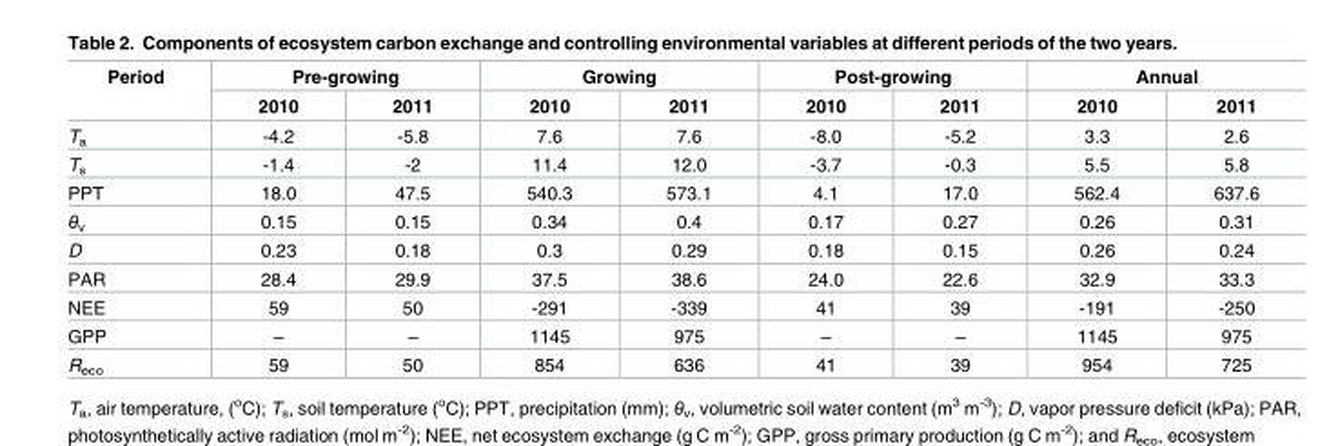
<table><thead><tr><td rowspan="2">Period</td><td colspan="2">Pre-growing</td><td colspan="2">Growing</td><td colspan="2">Post-growing</td><td colspan="2">Annual</td></tr><tr><td>2010</td><td>2011</td><td>2010</td><td>2011</td><td>2010</td><td>2011</td><td>2010</td><td>2011</td></tr></thead><tbody><tr><td>T<sub>a</sub></td><td>-4.2</td><td>-5.8</td><td>7.6</td><td>7.6</td><td>-8.0</td><td>-5.2</td><td>3.3</td><td>2.6</td></tr><tr><td>T<sub>s</sub></td><td>-1.4</td><td>-2</td><td>11.4</td><td>12.0</td><td>-3.7</td><td>-0.3</td><td>5.5</td><td>5.8</td></tr><tr><td>PPT</td><td>18.0</td><td>47.5</td><td>540.3</td><td>573.1</td><td>4.1</td><td>17.0</td><td>562.4</td><td>637.6</td></tr><tr><td>θ<sub>v</sub></td><td>0.15</td><td>0.15</td><td>0.34</td><td>0.4</td><td>0.17</td><td>0.27</td><td>0.26</td><td>0.31</td></tr><tr><td>D</td><td>0.23</td><td>0.18</td><td>0.3</td><td>0.29</td><td>0.18</td><td>0.15</td><td>0.26</td><td>0.24</td></tr><tr><td>PAR</td><td>28.4</td><td>29.9</td><td>37.5</td><td>38.6</td><td>24.0</td><td>22.6</td><td>32.9</td><td>33.3</td></tr><tr><td>NEE</td><td>59</td><td>50</td><td>-291</td><td>-339</td><td>41</td><td>39</td><td>-191</td><td>-250</td></tr><tr><td>GPP</td><td>–</td><td>–</td><td>1145</td><td>975</td><td>–</td><td>–</td><td>1145</td><td>975</td></tr><tr><td>R<sub>eco</sub></td><td>59</td><td>50</td><td>854</td><td>636</td><td>41</td><td>39</td><td>954</td><td>725</td></tr></tbody></table>